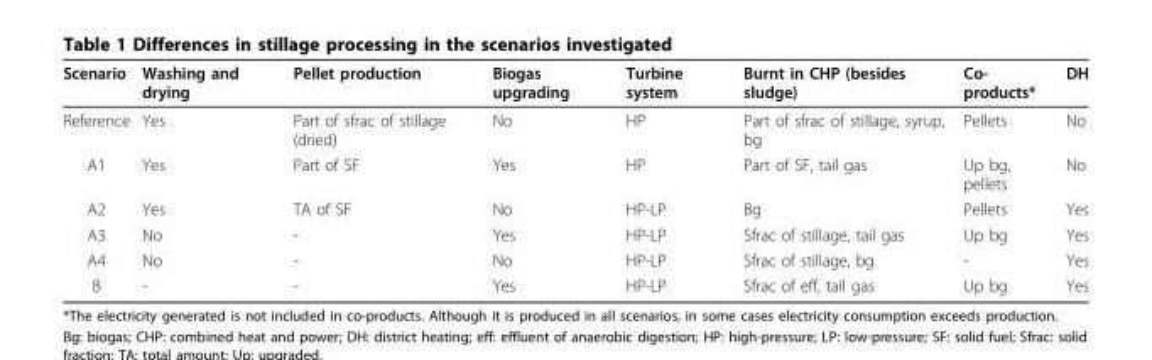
<table><thead><tr><td>Scenario</td><td>Washing and drying</td><td>Pellet production</td><td>Biogas upgrading</td><td>Turbine system</td><td>Burnt in CHP (besides sludge)</td><td>Co- products*</td><td>DH</td></tr></thead><tbody><tr><td>Reference</td><td>Yes</td><td>Part of sfrac of stillage (dried)</td><td>No</td><td>HP</td><td>Part of sfrac of stillage, syrup, bg</td><td>Pellets</td><td>No</td></tr><tr><td>A1</td><td>Yes</td><td>Part of SF</td><td>Yes</td><td>HP</td><td>Part of SF, tail gas</td><td>Up bg, pellets</td><td>No</td></tr><tr><td>A2</td><td>Yes</td><td>TA of SF</td><td>No</td><td>HP-LP</td><td>Bg</td><td>Pellets</td><td>Yes</td></tr><tr><td>A3</td><td>No</td><td>-</td><td>Yes</td><td>HP-LP</td><td>Sfrac of stillage, tail gas</td><td>Up bg</td><td>Yes</td></tr><tr><td>A4</td><td>No</td><td>-</td><td>No</td><td>HP-LP</td><td>Sfrac of stillage, bg</td><td>-</td><td>Yes</td></tr><tr><td>B</td><td>-</td><td>-</td><td>Yes</td><td>HP-LP</td><td>Sfrac of eff, tail gas</td><td>Up bg</td><td>Yes</td></tr></tbody></table>